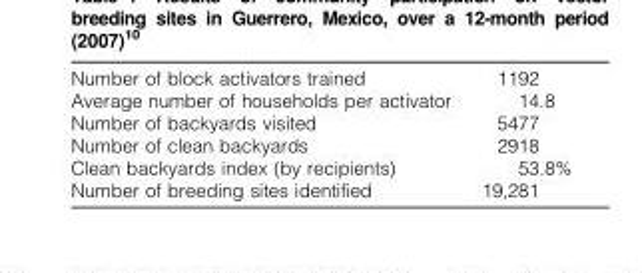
<table><tbody><tr><td>Number of block activators trained</td><td>1192</td></tr><tr><td>Average number of households per activator</td><td>14.8</td></tr><tr><td>Number of backyards visited</td><td>5477</td></tr><tr><td>Number of clean backyards</td><td>2918</td></tr><tr><td>Clean backyards index (by recipients)</td><td>53.8%</td></tr><tr><td>Number of breeding sites identified</td><td>19,281</td></tr></tbody></table>